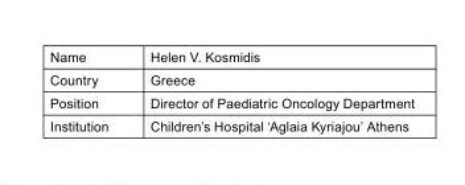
<table><tbody><tr><td>Name</td><td>Helen V. Kosmidis</td></tr><tr><td>Country</td><td>Greece</td></tr><tr><td>Position</td><td>Director of Paediatric Oncology Department</td></tr><tr><td>Institution</td><td>Children’s Hospital ‘Aglaia Kyriajou’ Athens</td></tr></tbody></table>